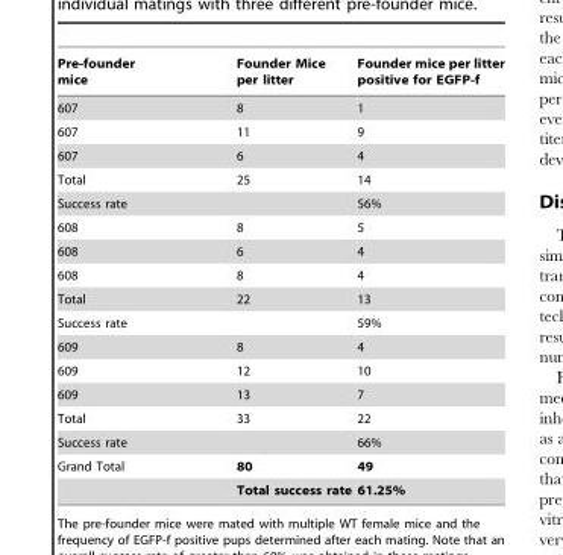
<table><thead><tr><td>Pre-founder mice</td><td>Founder Mice per litter</td><td>Founder mice per litter positive for EGFP-f</td></tr></thead><tbody><tr><td>607</td><td>8</td><td>1</td></tr><tr><td>607</td><td>11</td><td>9</td></tr><tr><td>607</td><td>6</td><td>4</td></tr><tr><td>Total</td><td>25</td><td>14</td></tr><tr><td colspan="2">Success rate</td><td>56%</td></tr><tr><td>608</td><td>8</td><td>5</td></tr><tr><td>608</td><td>6</td><td>4</td></tr><tr><td>608</td><td>8</td><td>4</td></tr><tr><td>Total</td><td>22</td><td>13</td></tr><tr><td colspan="2">Success rate</td><td>59%</td></tr><tr><td>609</td><td>8</td><td>4</td></tr><tr><td>609</td><td>12</td><td>10</td></tr><tr><td>609</td><td>13</td><td>7</td></tr><tr><td>Total</td><td>33</td><td>22</td></tr><tr><td>Success rate</td><td></td><td>66%</td></tr><tr><td rowspan="2">Grand Total</td><td>80</td><td>49</td></tr><tr><td>Total success rate</td><td>61.25%</td></tr></tbody></table>